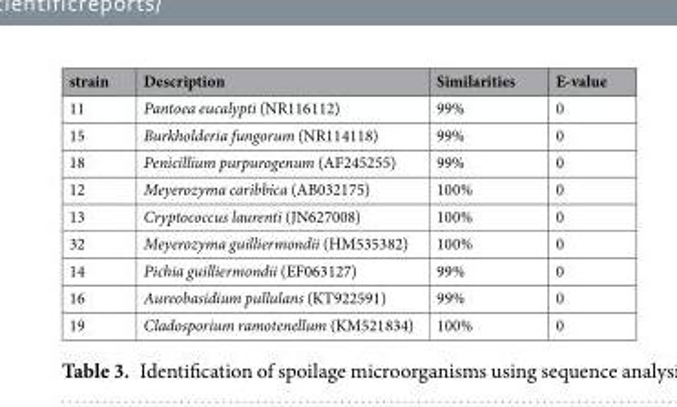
<table><thead><tr><td>strain</td><td>Description</td><td>Similarities</td><td>E-value</td></tr></thead><tbody><tr><td>11</td><td>Pantoea eucalypti (NR116112)</td><td>99%</td><td>0</td></tr><tr><td>15</td><td>Burkholderia fungorum (NR114118)</td><td>99%</td><td>0</td></tr><tr><td>18</td><td>Penicillium purpurogenum (AF245255)</td><td>99%</td><td>0</td></tr><tr><td>12</td><td>Meyerozyma caribbica (AB032175)</td><td>100%</td><td>0</td></tr><tr><td>13</td><td>Cryptococcus laurenti (JN627008)</td><td>100%</td><td>0</td></tr><tr><td>32</td><td>Meyerozyma guilliermondii (HM535382)</td><td>100%</td><td>0</td></tr><tr><td>14</td><td>Pichia guilliermondii (EF063127)</td><td>99%</td><td>0</td></tr><tr><td>16</td><td>Aureobasidium pullulans (KT922591)</td><td>99%</td><td>0</td></tr><tr><td>19</td><td>Cladosporium ramotenellum (KM521834)</td><td>100%</td><td>0</td></tr></tbody></table>